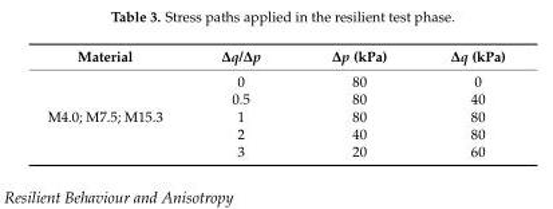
<table><thead><tr><td>Material</td><td>∆q/∆p</td><td>∆p (kPa)</td><td>∆q (kPa)</td></tr></thead><tbody><tr><td rowspan="5">M4.0; M7.5; M15.3</td><td>0</td><td>80</td><td>0</td></tr><tr><td>0.5</td><td>80</td><td>40</td></tr><tr><td>1</td><td>80</td><td>80</td></tr><tr><td>2</td><td>40</td><td>80</td></tr><tr><td>3</td><td>20</td><td>60</td></tr></tbody></table>